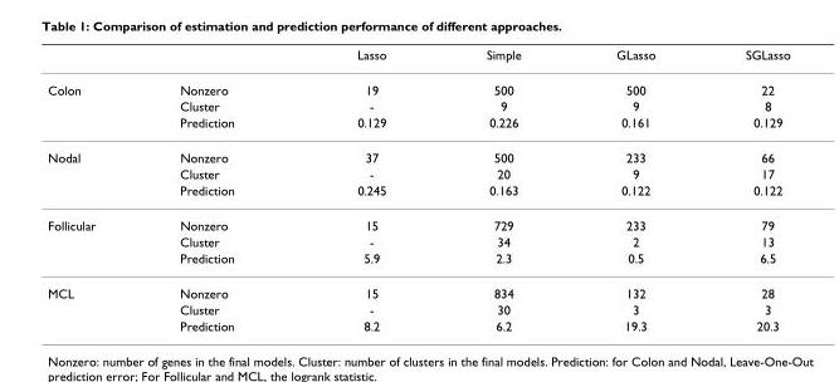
<table><thead><tr><td></td><td></td><td>Lasso</td><td>Simple</td><td>GLasso</td><td>SGLasso</td></tr></thead><tbody><tr><td rowspan="3">Colon</td><td>Nonzero</td><td>19</td><td>500</td><td>500</td><td>22</td></tr><tr><td>Cluster</td><td>-</td><td>9</td><td>9</td><td>8</td></tr><tr><td>Prediction</td><td>0.129</td><td>0.226</td><td>0.161</td><td>0.129</td></tr><tr><td rowspan="3">Nodal</td><td>Nonzero</td><td>37</td><td>500</td><td>233</td><td>66</td></tr><tr><td>Cluster</td><td>-</td><td>20</td><td>9</td><td>17</td></tr><tr><td>Prediction</td><td>0.245</td><td>0.163</td><td>0.122</td><td>0.122</td></tr><tr><td rowspan="3">Follicular</td><td>Nonzero</td><td>15</td><td>729</td><td>233</td><td>79</td></tr><tr><td>Cluster</td><td>-</td><td>34</td><td>2</td><td>13</td></tr><tr><td>Prediction</td><td>5.9</td><td>2.3</td><td>0.5</td><td>6.5</td></tr><tr><td rowspan="3">MCL</td><td>Nonzero</td><td>15</td><td>834</td><td>132</td><td>28</td></tr><tr><td>Cluster</td><td>-</td><td>30</td><td>3</td><td>3</td></tr><tr><td>Prediction</td><td>8.2</td><td>6.2</td><td>19.3</td><td>20.3</td></tr></tbody></table>